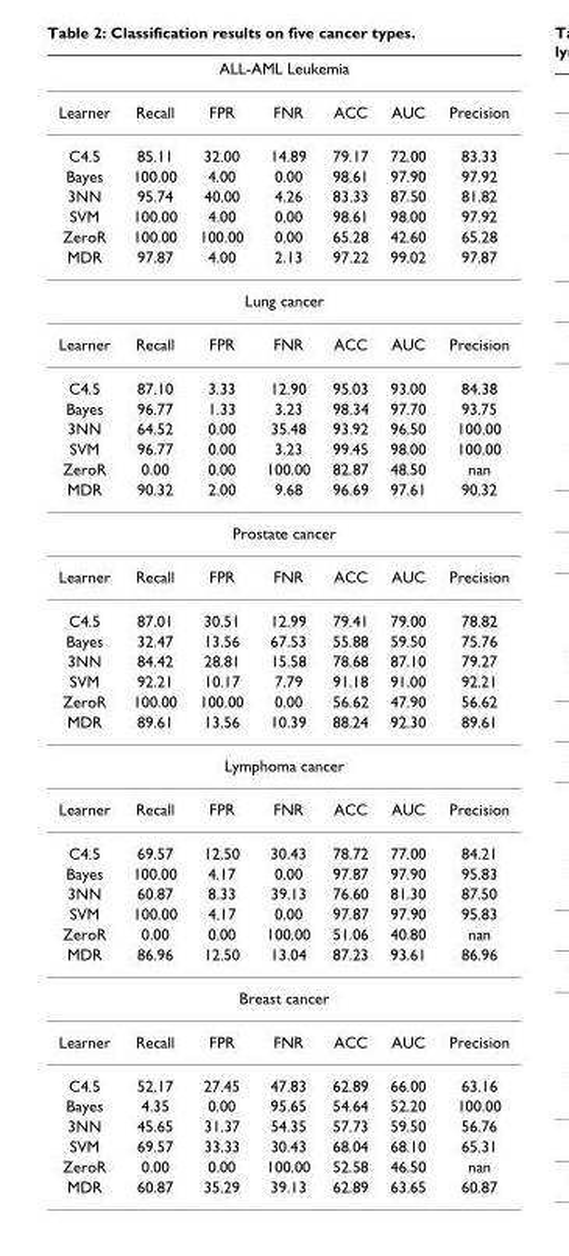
<table><thead><tr><td colspan="7">ALL-AML Leukemia</td></tr><tr><td>Learner</td><td>Recall</td><td>FPR</td><td>FNR</td><td>ACC</td><td>AUC</td><td>Precision</td></tr></thead><tbody><tr><td>C4.5</td><td>85.11</td><td>32.00</td><td>14.89</td><td>79.17</td><td>72.00</td><td>83.33</td></tr><tr><td>Bayes</td><td>100.00</td><td>4.00</td><td>0.00</td><td>98.61</td><td>97.90</td><td>97.92</td></tr><tr><td>3NN</td><td>95.74</td><td>40.00</td><td>4.26</td><td>83.33</td><td>87.50</td><td>81.82</td></tr><tr><td>SVM</td><td>100.00</td><td>4.00</td><td>0.00</td><td>98.61</td><td>98.00</td><td>97.92</td></tr><tr><td>ZeroR</td><td>100.00</td><td>100.00</td><td>0.00</td><td>65.28</td><td>42.60</td><td>65.28</td></tr><tr><td>MDR</td><td>97.87</td><td>4.00</td><td>2.13</td><td>97.22</td><td>99.02</td><td>97.87</td></tr><tr><td colspan="7">Lung cancer</td></tr><tr><td>Learner</td><td>Recall</td><td>FPR</td><td>FNR</td><td>ACC</td><td>AUC</td><td>Precision</td></tr><tr><td>C4.5</td><td>87.10</td><td>3.33</td><td>12.90</td><td>95.03</td><td>93.00</td><td>84.38</td></tr><tr><td>Bayes</td><td>96.77</td><td>1.33</td><td>3.23</td><td>98.34</td><td>97.70</td><td>93.75</td></tr><tr><td>3NN</td><td>64.52</td><td>0.00</td><td>35.48</td><td>93.92</td><td>96.50</td><td>100.00</td></tr><tr><td>SVM</td><td>96.77</td><td>0.00</td><td>3.23</td><td>99.45</td><td>98.00</td><td>100.00</td></tr><tr><td>ZeroR</td><td>0.00</td><td>0.00</td><td>100.00</td><td>82.87</td><td>48.50</td><td>nan</td></tr><tr><td>MDR</td><td>90.32</td><td>2.00</td><td>9.68</td><td>96.69</td><td>97.61</td><td>90.32</td></tr><tr><td colspan="7">Prostate cancer</td></tr><tr><td>Learner</td><td>Recall</td><td>FPR</td><td>FNR</td><td>ACC</td><td>AUC</td><td>Precision</td></tr><tr><td>C4.5</td><td>87.01</td><td>30.51</td><td>12.99</td><td>79.41</td><td>79.00</td><td>78.82</td></tr><tr><td>Bayes</td><td>32.47</td><td>13.56</td><td>67.53</td><td>55.88</td><td>59.50</td><td>75.76</td></tr><tr><td>3NN</td><td>84.42</td><td>28.81</td><td>15.58</td><td>78.68</td><td>87.10</td><td>79.27</td></tr><tr><td>SVM</td><td>92.21</td><td>10.17</td><td>7.79</td><td>91.18</td><td>91.00</td><td>92.21</td></tr><tr><td>ZeroR</td><td>100.00</td><td>100.00</td><td>0.00</td><td>56.62</td><td>47.90</td><td>56.62</td></tr><tr><td>MDR</td><td>89.61</td><td>13.56</td><td>10.39</td><td>88.24</td><td>92.30</td><td>89.61</td></tr><tr><td colspan="7">Lymphoma cancer</td></tr><tr><td>Learner</td><td>Recall</td><td>FPR</td><td>FNR</td><td>ACC</td><td>AUC</td><td>Precision</td></tr><tr><td>C4.5</td><td>69.57</td><td>12.50</td><td>30.43</td><td>78.72</td><td>77.00</td><td>84.21</td></tr><tr><td>Bayes</td><td>100.00</td><td>4.17</td><td>0.00</td><td>97.87</td><td>97.90</td><td>95.83</td></tr><tr><td>3NN</td><td>60.87</td><td>8.33</td><td>39.13</td><td>76.60</td><td>81.30</td><td>87.50</td></tr><tr><td>SVM</td><td>100.00</td><td>4.17</td><td>0.00</td><td>97.87</td><td>97.90</td><td>95.83</td></tr><tr><td>ZeroR</td><td>0.00</td><td>0.00</td><td>100.00</td><td>51.06</td><td>40.80</td><td>nan</td></tr><tr><td>MDR</td><td>86.96</td><td>12.50</td><td>13.04</td><td>87.23</td><td>93.61</td><td>86.96</td></tr><tr><td colspan="7">Breast cancer</td></tr><tr><td>Learner</td><td>Recall</td><td>FPR</td><td>FNR</td><td>ACC</td><td>AUC</td><td>Precision</td></tr><tr><td>C4.5</td><td>52.17</td><td>27.45</td><td>47.83</td><td>62.89</td><td>66.00</td><td>63.16</td></tr><tr><td>Bayes</td><td>4.35</td><td>0.00</td><td>95.65</td><td>54.64</td><td>52.20</td><td>100.00</td></tr><tr><td>3NN</td><td>45.65</td><td>31.37</td><td>54.35</td><td>57.73</td><td>59.50</td><td>56.76</td></tr><tr><td>SVM</td><td>69.57</td><td>33.33</td><td>30.43</td><td>68.04</td><td>68.10</td><td>65.31</td></tr><tr><td>ZeroR</td><td>0.00</td><td>0.00</td><td>100.00</td><td>52.58</td><td>46.50</td><td>nan</td></tr><tr><td>MDR</td><td>60.87</td><td>35.29</td><td>39.13</td><td>62.89</td><td>63.65</td><td>60.87</td></tr></tbody></table>